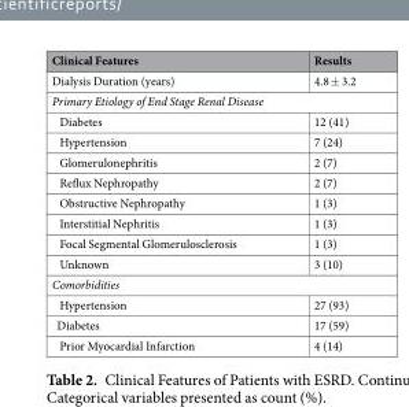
<table><thead><tr><td>Clinical Features</td><td>Results</td></tr></thead><tbody><tr><td>Dialysis Duration (years)</td><td>4.8 ± 3.2</td></tr><tr><td colspan="2">Primary Etiology of End Stage Renal Disease</td></tr><tr><td>Diabetes</td><td>12 (41)</td></tr><tr><td>Hypertension</td><td>7 (24)</td></tr><tr><td>Glomerulonephritis</td><td>2 (7)</td></tr><tr><td>Reflux Nephropathy</td><td>2 (7)</td></tr><tr><td>Obstructive Nephropathy</td><td>1 (3)</td></tr><tr><td>Interstitial Nephritis</td><td>1 (3)</td></tr><tr><td>Focal Segmental Glomerulosclerosis</td><td>1 (3)</td></tr><tr><td>Unknown</td><td>3 (10)</td></tr><tr><td colspan="2">Comorbidities</td></tr><tr><td>Hypertension</td><td>27 (93)</td></tr><tr><td>Diabetes</td><td>17 (59)</td></tr><tr><td>Prior Myocardial Infarction</td><td>4 (14)</td></tr></tbody></table>